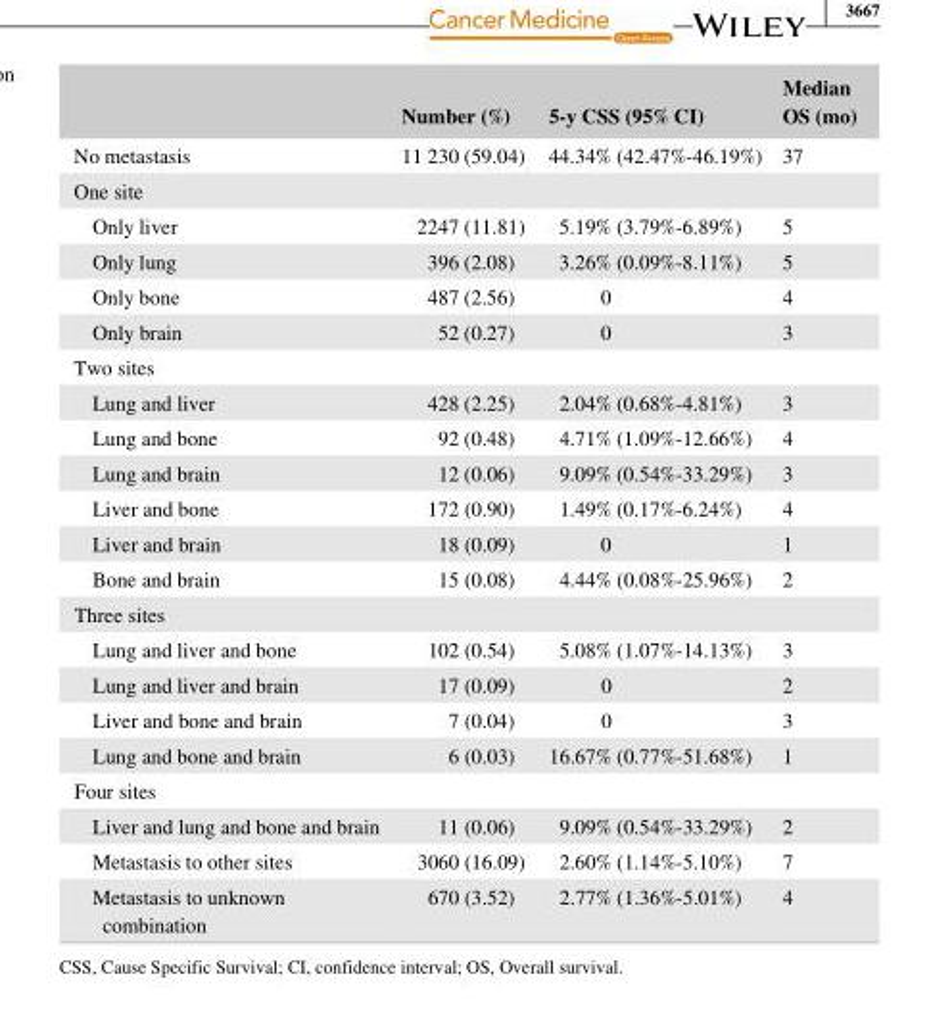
<table><thead><tr><td></td><td>Number (%)</td><td>5- y CSS (95% CI)</td><td>Median OS (mo)</td></tr></thead><tbody><tr><td>No metastasis</td><td>11 230 (59.04)</td><td>44.34% (42.47%- 46.19%)</td><td>37</td></tr><tr><td colspan="4">One site</td></tr><tr><td>Only liver</td><td>2247 (11.81)</td><td>5.19% (3.79%- 6.89%)</td><td>5</td></tr><tr><td>Only lung</td><td>396 (2.08)</td><td>3.26% (0.09%- 8.11%)</td><td>5</td></tr><tr><td>Only bone</td><td>487 (2.56)</td><td>0</td><td>4</td></tr><tr><td>Only brain</td><td>52 (0.27)</td><td>0</td><td>3</td></tr><tr><td colspan="4">Two sites</td></tr><tr><td>Lung and liver</td><td>428 (2.25)</td><td>2.04% (0.68%- 4.81%)</td><td>3</td></tr><tr><td>Lung and bone</td><td>92 (0.48)</td><td>4.71% (1.09%- 12.66%)</td><td>4</td></tr><tr><td>Lung and brain</td><td>12 (0.06)</td><td>9.09% (0.54%- 33.29%)</td><td>3</td></tr><tr><td>Liver and bone</td><td>172 (0.90)</td><td>1.49% (0.17%- 6.24%)</td><td>4</td></tr><tr><td>Liver and brain</td><td>18 (0.09)</td><td>0</td><td>1</td></tr><tr><td>Bone and brain</td><td>15 (0.08)</td><td>4.44% (0.08%- 25.96%)</td><td>2</td></tr><tr><td colspan="4">Three sites</td></tr><tr><td>Lung and liver and bone</td><td>102 (0.54)</td><td>5.08% (1.07%- 14.13%)</td><td>3</td></tr><tr><td>Lung and liver and brain</td><td>17 (0.09)</td><td>0</td><td>2</td></tr><tr><td>Liver and bone and brain</td><td>7 (0.04)</td><td>0</td><td>3</td></tr><tr><td>Lung and bone and brain</td><td>6 (0.03)</td><td>16.67% (0.77%- 51.68%)</td><td>1</td></tr><tr><td colspan="4">Four sites</td></tr><tr><td>Liver and lung and bone and brain</td><td>11 (0.06)</td><td>9.09% (0.54%- 33.29%)</td><td>2</td></tr><tr><td>Metastasis to other sites</td><td>3060 (16.09)</td><td>2.60% (1.14%- 5.10%)</td><td>7</td></tr><tr><td>Metastasis to unknown combination</td><td>670 (3.52)</td><td>2.77% (1.36%- 5.01%)</td><td>4</td></tr></tbody></table>